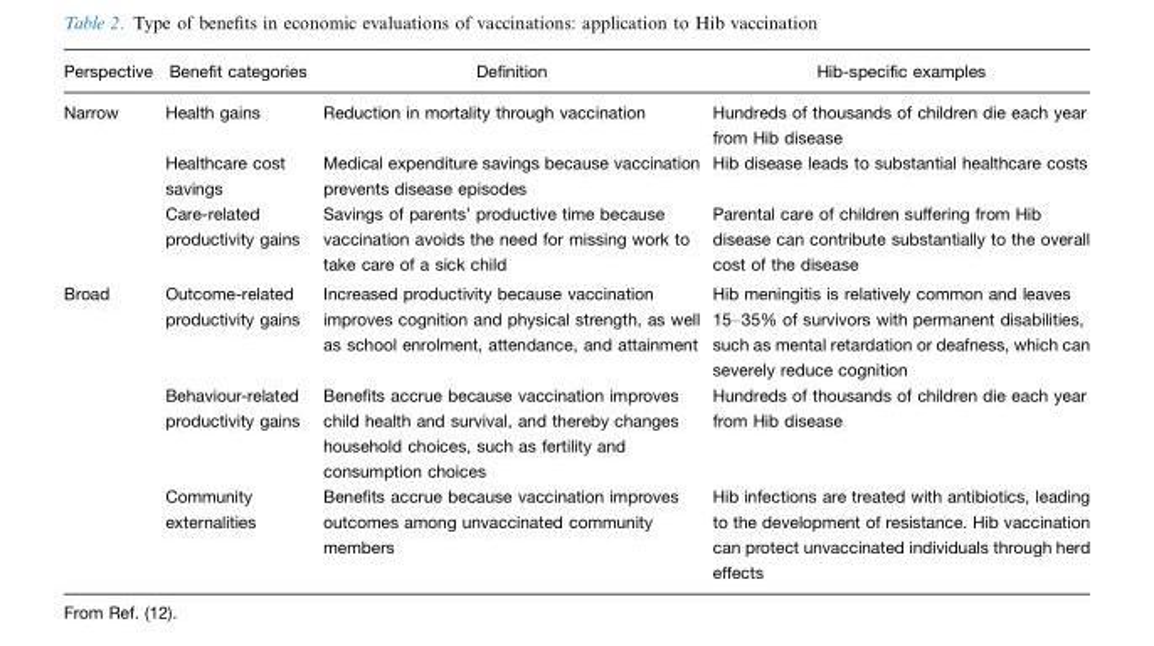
<table><thead><tr><td>Perspective</td><td>Benefit categories</td><td>Definition</td><td>Hib-specific examples</td></tr></thead><tbody><tr><td rowspan="3">Narrow</td><td>Health gains</td><td>Reduction in mortality through vaccination</td><td>Hundreds of thousands of children die each year from Hib disease</td></tr><tr><td>Healthcare cost savings</td><td>Medical expenditure savings because vaccination prevents disease episodes</td><td>Hib disease leads to substantial healthcare costs</td></tr><tr><td>Care-related productivity gains</td><td>Savings of parents’ productive time because vaccination avoids the need for missing work to take care of a sick child</td><td>Parental care of children suffering from Hib disease can contribute substantially to the overall cost of the disease</td></tr><tr><td rowspan="3">Broad</td><td>Outcome-related productivity gains</td><td>Increased productivity because vaccination improves cognition and physical strength, as well as school enrolment, attendance, and attainment</td><td>Hib meningitis is relatively common and leaves 15–35% of survivors with permanent disabilities, such as mental retardation or deafness, which can severely reduce cognition</td></tr><tr><td>Behaviour-related productivity gains</td><td>Benefits accrue because vaccination improves child health and survival, and thereby changes household choices, such as fertility and consumption choices</td><td>Hundreds of thousands of children die each year from Hib disease</td></tr><tr><td>Community externalities</td><td>Benefits accrue because vaccination improves outcomes among unvaccinated community members</td><td>Hib infections are treated with antibiotics, leading to the development of resistance. Hib vaccination can protect unvaccinated individuals through herd effects</td></tr></tbody></table>